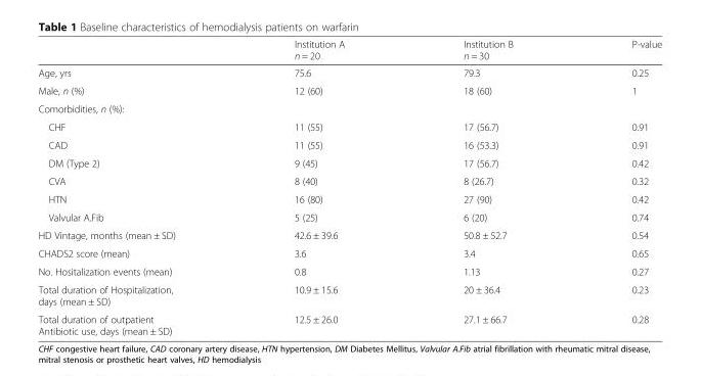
<table><thead><tr><td></td><td>Institution A n = 20</td><td>Institution B n = 30</td><td>P-value</td></tr></thead><tbody><tr><td>Age, yrs</td><td>75.6</td><td>79.3</td><td>0.25</td></tr><tr><td>Male, n (%)</td><td>12 (60)</td><td>18 (60)</td><td>1</td></tr><tr><td colspan="4">Comorbidities, n (%):</td></tr><tr><td>CHF</td><td>11 (55)</td><td>17 (56.7)</td><td>0.91</td></tr><tr><td>CAD</td><td>11 (55)</td><td>16 (53.3)</td><td>0.91</td></tr><tr><td>DM (Type 2)</td><td>9 (45)</td><td>17 (56.7)</td><td>0.42</td></tr><tr><td>CVA</td><td>8 (40)</td><td>8 (26.7)</td><td>0.32</td></tr><tr><td>HTN</td><td>16 (80)</td><td>27 (90)</td><td>0.42</td></tr><tr><td>Valvular A.Fib</td><td>5 (25)</td><td>6 (20)</td><td>0.74</td></tr><tr><td>HD Vintage, months (mean ± SD)</td><td>42.6 ± 39.6</td><td>50.8 ± 52.7</td><td>0.54</td></tr><tr><td>CHADS2 score (mean)</td><td>3.6</td><td>3.4</td><td>0.65</td></tr><tr><td>No. Hositalization events (mean)</td><td>0.8</td><td>1.13</td><td>0.27</td></tr><tr><td>Total duration of Hospitalization, days (mean ± SD)</td><td>10.9 ± 15.6</td><td>20 ± 36.4</td><td>0.23</td></tr><tr><td>Total duration of outpatient Antibiotic use, days (mean ± SD)</td><td>12.5 ± 26.0</td><td>27.1 ± 66.7</td><td>0.28</td></tr></tbody></table>